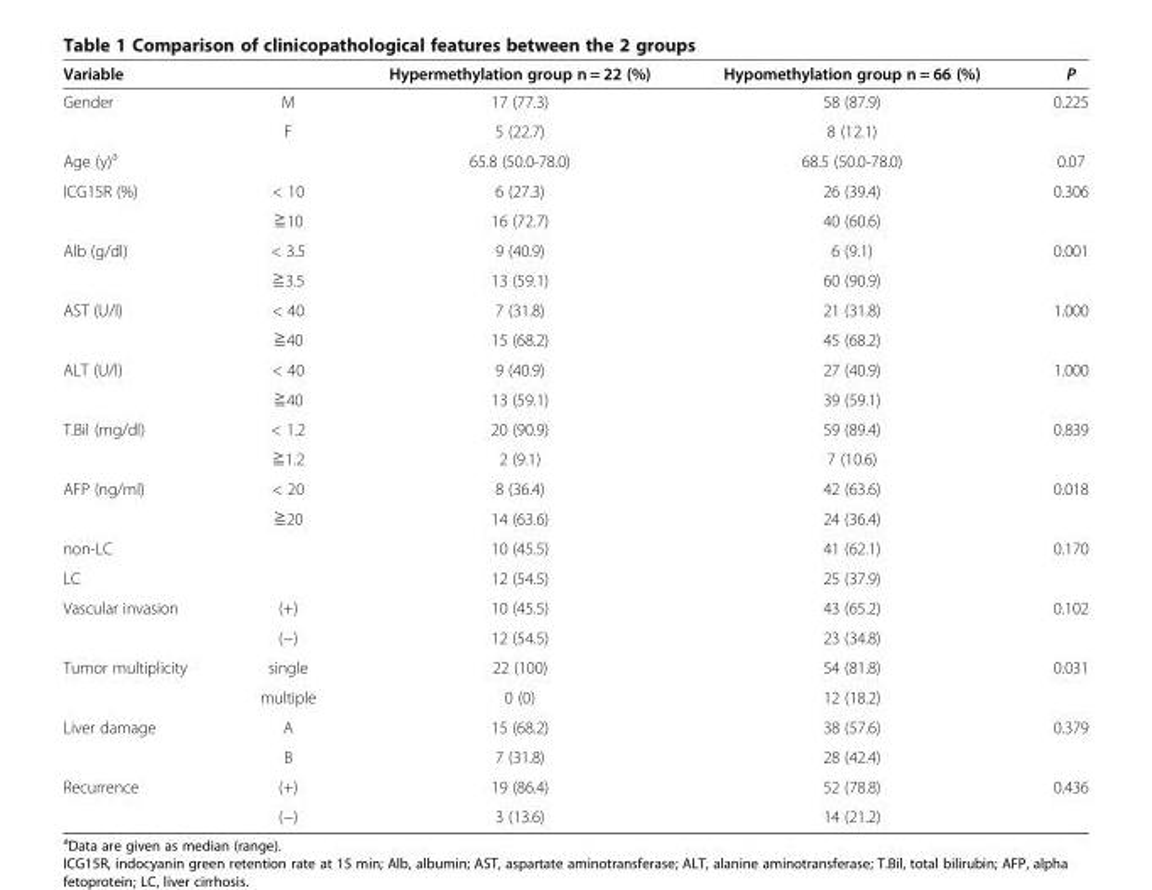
<table><thead><tr><td>Variable</td><td></td><td>Hypermethylation group n = 22 (%)</td><td>Hypomethylation group n = 66 (%)</td><td>P</td></tr></thead><tbody><tr><td rowspan="2">Gender</td><td>M</td><td>17 (77.3)</td><td>58 (87.9)</td><td rowspan="2">0.225</td></tr><tr><td>F</td><td>5 (22.7)</td><td>8 (12.1)</td></tr><tr><td>Age (y)<sup>a</sup></td><td></td><td>65.8 (50.0-78.0)</td><td>68.5 (50.0-78.0)</td><td>0.07</td></tr><tr><td rowspan="2">ICG15R (%)</td><td>&lt; 10</td><td>6 (27.3)</td><td>26 (39.4)</td><td rowspan="2">0.306</td></tr><tr><td>≧10</td><td>16 (72.7)</td><td>40 (60.6)</td></tr><tr><td rowspan="2">Alb (g/dl)</td><td>&lt; 3.5</td><td>9 (40.9)</td><td>6 (9.1)</td><td rowspan="2">0.001</td></tr><tr><td>≧3.5</td><td>13 (59.1)</td><td>60 (90.9)</td></tr><tr><td rowspan="2">AST (U/l)</td><td>&lt; 40</td><td>7 (31.8)</td><td>21 (31.8)</td><td rowspan="2">1.000</td></tr><tr><td>≧40</td><td>15 (68.2)</td><td>45 (68.2)</td></tr><tr><td rowspan="2">ALT (U/l)</td><td>&lt; 40</td><td>9 (40.9)</td><td>27 (40.9)</td><td rowspan="2">1.000</td></tr><tr><td>≧40</td><td>13 (59.1)</td><td>39 (59.1)</td></tr><tr><td rowspan="2">T.Bil (mg/dl)</td><td>&lt; 1.2</td><td>20 (90.9)</td><td>59 (89.4)</td><td rowspan="2">0.839</td></tr><tr><td>≧1.2</td><td>2 (9.1)</td><td>7 (10.6)</td></tr><tr><td rowspan="2">AFP (ng/ml)</td><td>&lt; 20</td><td>8 (36.4)</td><td>42 (63.6)</td><td rowspan="2">0.018</td></tr><tr><td>≧20</td><td>14 (63.6)</td><td>24 (36.4)</td></tr><tr><td>non-LC</td><td></td><td>10 (45.5)</td><td>41 (62.1)</td><td rowspan="2">0.170</td></tr><tr><td>LC</td><td></td><td>12 (54.5)</td><td>25 (37.9)</td></tr><tr><td rowspan="2">Vascular invasion</td><td>(+)</td><td>10 (45.5)</td><td>43 (65.2)</td><td rowspan="2">0.102</td></tr><tr><td>(−)</td><td>12 (54.5)</td><td>23 (34.8)</td></tr><tr><td rowspan="2">Tumor multiplicity</td><td>single</td><td>22 (100)</td><td>54 (81.8)</td><td rowspan="2">0.031</td></tr><tr><td>multiple</td><td>0 (0)</td><td>12 (18.2)</td></tr><tr><td rowspan="2">Liver damage</td><td>A</td><td>15 (68.2)</td><td>38 (57.6)</td><td rowspan="2">0.379</td></tr><tr><td>B</td><td>7 (31.8)</td><td>28 (42.4)</td></tr><tr><td rowspan="2">Recurrence</td><td>(+)</td><td>19 (86.4)</td><td>52 (78.8)</td><td>0.436</td></tr><tr><td>(−)</td><td>3 (13.6)</td><td>14 (21.2)</td><td></td></tr></tbody></table>